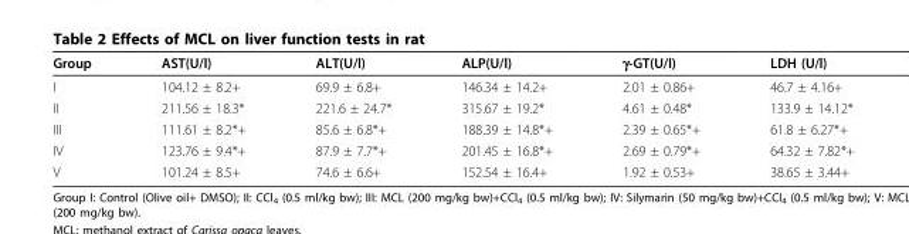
<table><thead><tr><td>Group</td><td>AST(U/l)</td><td>ALT(U/l)</td><td>ALP(U/l)</td><td>γ-GT(U/l)</td><td>LDH (U/l)</td></tr></thead><tbody><tr><td>I</td><td>104.12 ± 8.2+</td><td>69.9 ± 6.8+</td><td>146.34 ± 14.2+</td><td>2.01 ± 0.86+</td><td>46.7 ± 4.16+</td></tr><tr><td>II</td><td>211.56 ± 18.3*</td><td>221.6 ± 24.7*</td><td>315.67 ± 19.2*</td><td>4.61 ± 0.48*</td><td>133.9 ± 14.12*</td></tr><tr><td>III</td><td>111.61 ± 8.2*+</td><td>85.6 ± 6.8*+</td><td>188.39 ± 14.8*+</td><td>2.39 ± 0.65*+</td><td>61.8 ± 6.27*+</td></tr><tr><td>IV</td><td>123.76 ± 9.4*+</td><td>87.9 ± 7.7*+</td><td>201.45 ± 16.8*+</td><td>2.69 ± 0.79*+</td><td>64.32 ± 7.82*+</td></tr><tr><td>V</td><td>101.24 ± 8.5+</td><td>74.6 ± 6.6+</td><td>152.54 ± 16.4+</td><td>1.92 ± 0.53+</td><td>38.65 ± 3.44+</td></tr></tbody></table>